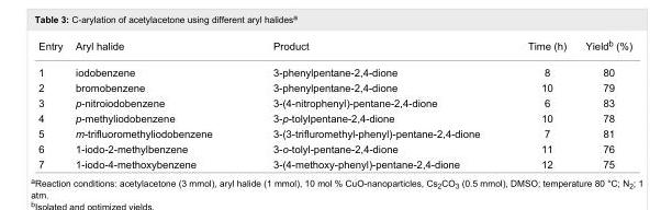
<table><tbody><tr><td>Entry</td><td>Aryl halide</td><td>Product</td><td>Time (h)</td><td>Yield<sup>b</sup> (%)</td></tr><tr><td>1</td><td>iodobenzene</td><td>3-phenylpentane-2,4-dione</td><td>8</td><td>80</td></tr><tr><td>2</td><td>bromobenzene</td><td>3-phenylpentane-2,4-dione</td><td>10</td><td>79</td></tr><tr><td>3</td><td>p-nitroiodobenzene</td><td>3-(4-nitrophenyl)-pentane-2,4-dione</td><td>6</td><td>83</td></tr><tr><td>4</td><td>p-methyliodobenzene</td><td>3-p-tolylpentane-2,4-dione</td><td>10</td><td>78</td></tr><tr><td>5</td><td>m-trifluoromethyliodobenzene</td><td>3-(3-trifluromethyl-phenyl)-pentane-2,4-dione</td><td>7</td><td>81</td></tr><tr><td>6</td><td>1-iodo-2-methylbenzene</td><td>3-o-tolyl-pentane-2,4-dione</td><td>11</td><td>76</td></tr><tr><td>7</td><td>1-iodo-4-methoxybenzene</td><td>3-(4-methoxy-phenyl)-pentane-2,4-dione</td><td>12</td><td>75</td></tr></tbody></table>